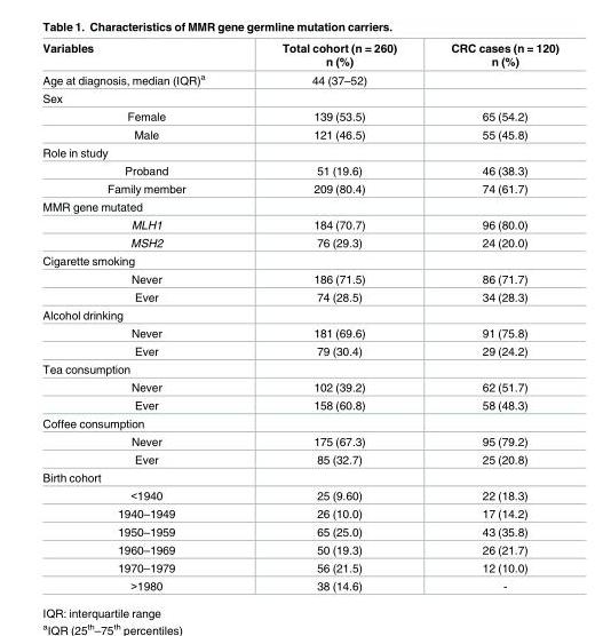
<table><thead><tr><td>Variables</td><td>Total cohort (n = 260) n (%)</td><td>CRC cases (n = 120) n (%)</td></tr></thead><tbody><tr><td>Age at diagnosis, median (IQR)<sup>a</sup></td><td>44 (37–52)</td><td></td></tr><tr><td colspan="3">Sex</td></tr><tr><td>Female</td><td>139 (53.5)</td><td>65 (54.2)</td></tr><tr><td>Male</td><td>121 (46.5)</td><td>55 (45.8)</td></tr><tr><td colspan="3">Role in study</td></tr><tr><td>Proband</td><td>51 (19.6)</td><td>46 (38.3)</td></tr><tr><td>Family member</td><td>209 (80.4)</td><td>74 (61.7)</td></tr><tr><td colspan="3">MMR gene mutated</td></tr><tr><td>MLH1</td><td>184 (70.7)</td><td>96 (80.0)</td></tr><tr><td>MSH2</td><td>76 (29.3)</td><td>24 (20.0)</td></tr><tr><td colspan="3">Cigarette smoking</td></tr><tr><td>Never</td><td>186 (71.5)</td><td>86 (71.7)</td></tr><tr><td>Ever</td><td>74 (28.5)</td><td>34 (28.3)</td></tr><tr><td colspan="3">Alcohol drinking</td></tr><tr><td>Never</td><td>181 (69.6)</td><td>91 (75.8)</td></tr><tr><td>Ever</td><td>79 (30.4)</td><td>29 (24.2)</td></tr><tr><td colspan="3">Tea consumption</td></tr><tr><td>Never</td><td>102 (39.2)</td><td>62 (51.7)</td></tr><tr><td>Ever</td><td>158 (60.8)</td><td>58 (48.3)</td></tr><tr><td colspan="3">Coffee consumption</td></tr><tr><td>Never</td><td>175 (67.3)</td><td>95 (79.2)</td></tr><tr><td>Ever</td><td>85 (32.7)</td><td>25 (20.8)</td></tr><tr><td colspan="3">Birth cohort</td></tr><tr><td>&lt;1940</td><td>25 (9.60)</td><td>22 (18.3)</td></tr><tr><td>1940–1949</td><td>26 (10.0)</td><td>17 (14.2)</td></tr><tr><td>1950–1959</td><td>65 (25.0)</td><td>43 (35.8)</td></tr><tr><td>1960–1969</td><td>50 (19.3)</td><td>26 (21.7)</td></tr><tr><td>1970–1979</td><td>56 (21.5)</td><td>12 (10.0)</td></tr><tr><td>&gt;1980</td><td>38 (14.6)</td><td>-</td></tr></tbody></table>